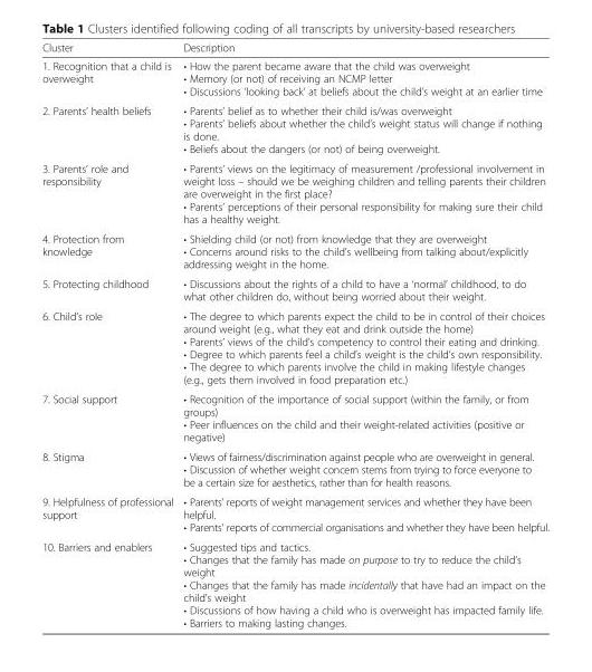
<table><thead><tr><td>Cluster</td><td>Description</td></tr></thead><tbody><tr><td>1. Recognition that a child is overweight</td><td>• How the parent became aware that the child was overweight • Memory (or not) of receiving an NCMP letter • Discussions ‘looking back’ at beliefs about the child’s weight at an earlier time</td></tr><tr><td>2. Parents’ health beliefs</td><td>• Parents’ belief as to whether their child is/was overweight • Parents’ beliefs about whether the child’s weight status will change if nothing is done. • Beliefs about the dangers (or not) of being overweight.</td></tr><tr><td>3. Parents’ role and responsibility</td><td>• Parents’ views on the legitimacy of measurement /professional involvement in weight loss – should we be weighing children and telling parents their children are overweight in the first place? • Parents’ perceptions of their personal responsibility for making sure their child has a healthy weight.</td></tr><tr><td>4. Protection from knowledge</td><td>• Shielding child (or not) from knowledge that they are overweight • Concerns around risks to the child’s wellbeing from talking about/explicitly addressing weight in the home.</td></tr><tr><td>5. Protecting childhood</td><td>• Discussions about the rights of a child to have a ‘normal’ childhood, to do what other children do, without being worried about their weight.</td></tr><tr><td>6. Child’s role</td><td>• The degree to which parents expect the child to be in control of their choices around weight (e.g., what they eat and drink outside the home) • Parents’ views of the child’s competency to control their eating and drinking. • Degree to which parents feel a child’s weight is the child’s own responsibility. • The degree to which parents involve the child in making lifestyle changes (e.g., gets them involved in food preparation etc.)</td></tr><tr><td>7. Social support</td><td>• Recognition of the importance of social support (within the family, or from groups) • Peer influences on the child and their weight-related activities (positive or negative)</td></tr><tr><td>8. Stigma</td><td>• Views of fairness/discrimination against people who are overweight in general. • Discussion of whether weight concern stems from trying to force everyone to be a certain size for aesthetics, rather than for health reasons.</td></tr><tr><td>9. Helpfulness of professional support</td><td>• Parents’ reports of weight management services and whether they have been helpful. • Parents’ reports of commercial organisations and whether they have been helpful.</td></tr><tr><td>10. Barriers and enablers</td><td>• Suggested tips and tactics. • Changes that the family has made on purpose to try to reduce the child’s weight • Changes that the family has made incidentally that have had an impact on the child’s weight • Discussions of how having a child who is overweight has impacted family life. • Barriers to making lasting changes.</td></tr></tbody></table>